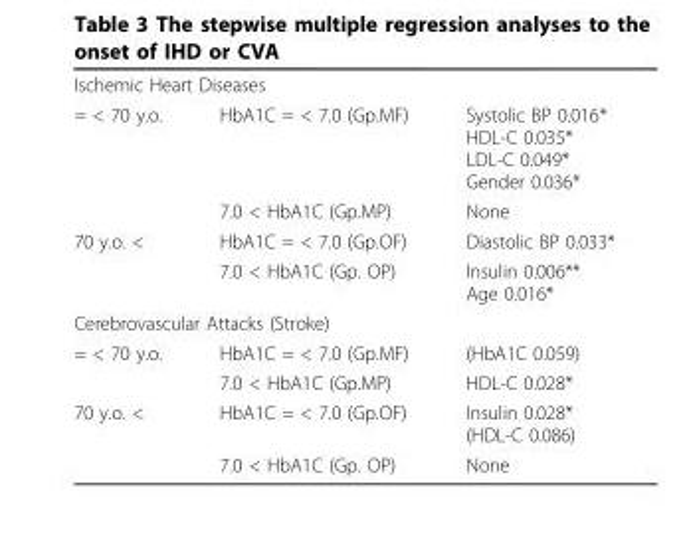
<table><tbody><tr><td colspan="3">Ischemic Heart Diseases</td></tr><tr><td rowspan="2">= &lt; 70 y.o.</td><td>HbA1C = &lt; 7.0 (Gp.MF)</td><td>Systolic BP 0.016* HDL-C 0.035* LDL-C 0.049* Gender 0.036*</td></tr><tr><td>7.0 &lt; HbA1C (Gp.MP)</td><td>None</td></tr><tr><td rowspan="2">70 y.o. &lt;</td><td>HbA1C = &lt; 7.0 (Gp.OF)</td><td>Diastolic BP 0.033*</td></tr><tr><td>7.0 &lt; HbA1C (Gp. OP)</td><td>Insulin 0.006** Age 0.016*</td></tr><tr><td colspan="3">Cerebrovascular Attacks (Stroke)</td></tr><tr><td rowspan="2">= &lt; 70 y.o.</td><td>HbA1C = &lt; 7.0 (Gp.MF)</td><td>(HbA1C 0.059)</td></tr><tr><td>7.0 &lt; HbA1C (Gp.MP)</td><td>HDL-C 0.028*</td></tr><tr><td rowspan="2">70 y.o. &lt;</td><td>HbA1C = &lt; 7.0 (Gp.OF)</td><td>Insulin 0.028* (HDL-C 0.086)</td></tr><tr><td>7.0 &lt; HbA1C (Gp. OP)</td><td>None</td></tr></tbody></table>